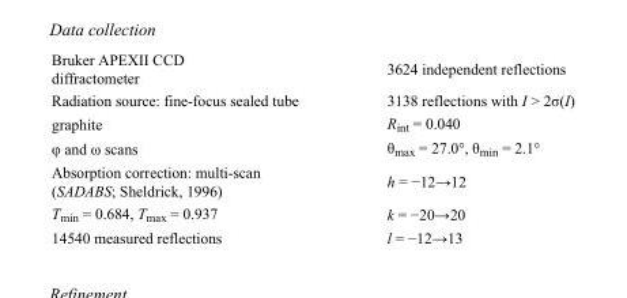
<table><tbody><tr><td>Bruker APEXII CCD diffractometer</td><td>3624 independent reflections</td></tr><tr><td>Radiation source: fine-focus sealed tube</td><td>3138 reflections with I &gt; 2σ(I)</td></tr><tr><td>graphite</td><td>R<sub>int</sub> = 0.040</td></tr><tr><td>φ and ω scans</td><td>θ<sub>max</sub> = 27.0°, θ<sub>min</sub> = 2.1°</td></tr><tr><td>Absorption correction: multi-scan (SADABS; Sheldrick, 1996)</td><td>h = −12→12</td></tr><tr><td>T<sub>min</sub> = 0.684, T<sub>max</sub> = 0.937</td><td>k = −20→20</td></tr><tr><td>14540 measured reflections</td><td>l = −12→13</td></tr></tbody></table>